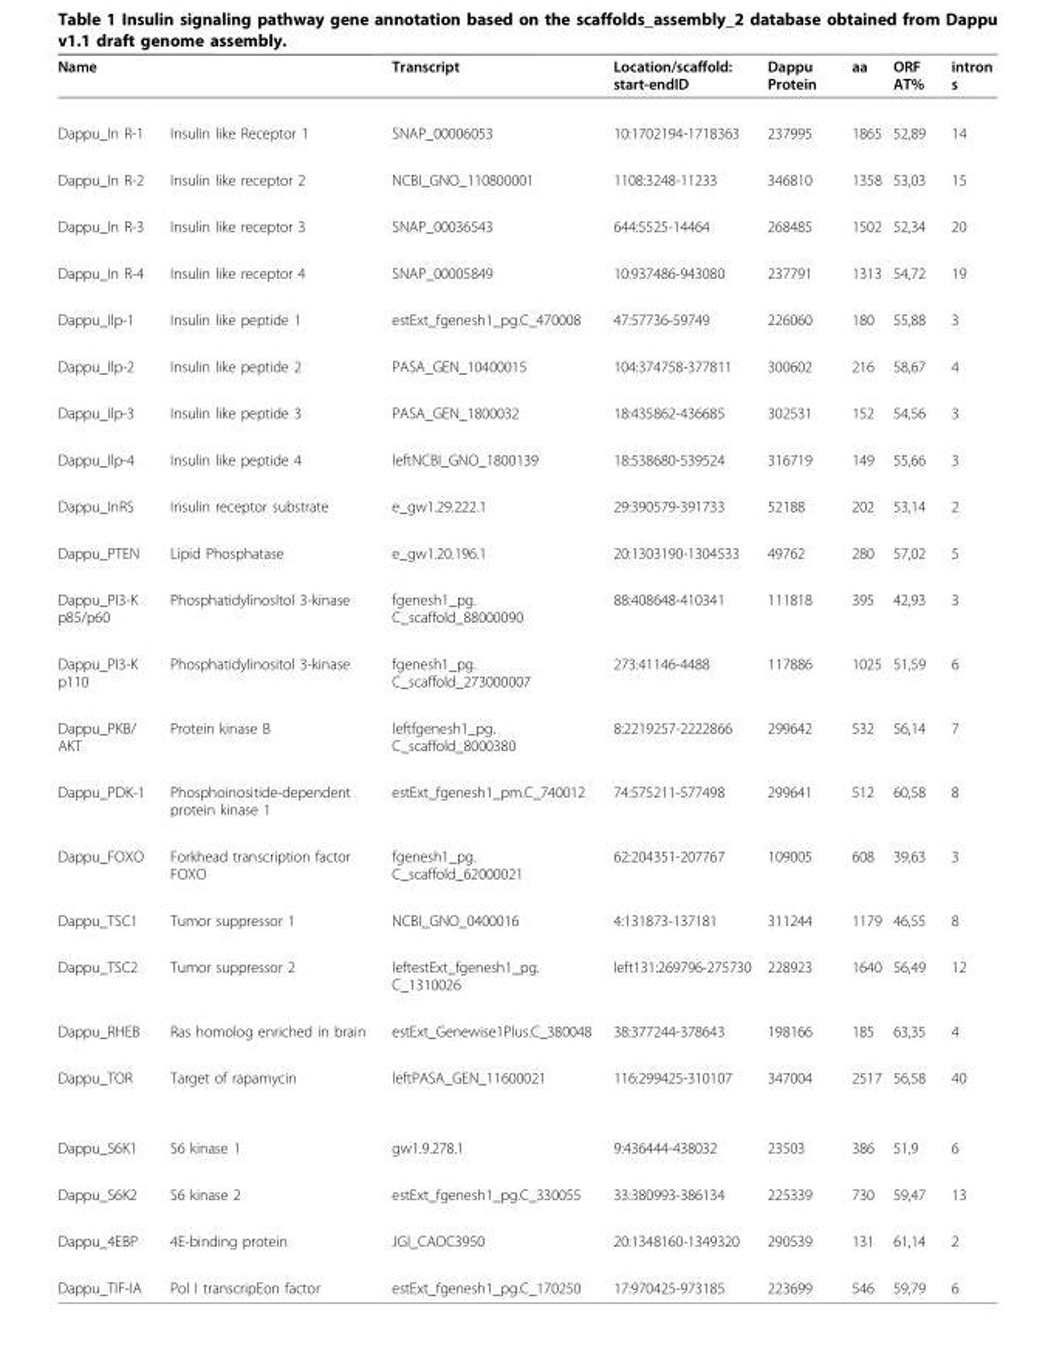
<table><thead><tr><td>Name</td><td></td><td>Transcript</td><td>Location/scaffold: start-endID</td><td>Dappu Protein</td><td>aa</td><td>ORF AT%</td><td>intron s</td></tr></thead><tbody><tr><td>Dappu_In R-1</td><td>Insulin like Receptor 1</td><td>SNAP_00006053</td><td>10:1702194-1718363</td><td>237995</td><td>1865</td><td>52,89</td><td>14</td></tr><tr><td>Dappu_In R-2</td><td>Insulin like receptor 2</td><td>NCBI_GNO_110800001</td><td>1108:3248-11233</td><td>346810</td><td>1358</td><td>53,03</td><td>15</td></tr><tr><td>Dappu_In R-3</td><td>Insulin like receptor 3</td><td>SNAP_00036543</td><td>644:5525-14464</td><td>268485</td><td>1502</td><td>52,34</td><td>20</td></tr><tr><td>Dappu_In R-4</td><td>Insulin like receptor 4</td><td>SNAP_00005849</td><td>10:937486-943080</td><td>237791</td><td>1313</td><td>54,72</td><td>19</td></tr><tr><td>Dappu_Ilp-1</td><td>Insulin like peptide 1</td><td>estExt_fgenesh1_pg.C_470008</td><td>47:57736-59749</td><td>226060</td><td>180</td><td>55,88</td><td>3</td></tr><tr><td>Dappu_Ilp-2</td><td>Insulin like peptide 2</td><td>PASA_GEN_10400015</td><td>104:374758-377811</td><td>300602</td><td>216</td><td>58,67</td><td>4</td></tr><tr><td>Dappu_Ilp-3</td><td>Insulin like peptide 3</td><td>PASA_GEN_1800032</td><td>18:435862-436685</td><td>302531</td><td>152</td><td>54,56</td><td>3</td></tr><tr><td>Dappu_Ilp-4</td><td>Insulin like peptide 4</td><td>leftNCBI_GNO_1800139</td><td>18:538680-539524</td><td>316719</td><td>149</td><td>55,66</td><td>3</td></tr><tr><td>Dappu_InRS</td><td>Insulin receptor substrate</td><td>e_gw1.29.222.1</td><td>29:390579-391733</td><td>52188</td><td>202</td><td>53,14</td><td>2</td></tr><tr><td>Dappu_PTEN</td><td>Lipid Phosphatase</td><td>e_gw1.20.196.1</td><td>20:1303190-1304533</td><td>49762</td><td>280</td><td>57,02</td><td>5</td></tr><tr><td>Dappu_PI3-K p85/p60</td><td>PhosphatidylinosItol 3-kinase</td><td>fgenesh1_pg. C_scaffold_88000090</td><td>88:408648-410341</td><td>111818</td><td>395</td><td>42,93</td><td>3</td></tr><tr><td>Dappu_PI3-K p110</td><td>Phosphatidylinositol 3-kinase</td><td>fgenesh1_pg. C_scaffold_273000007</td><td>273:41146-4488</td><td>117886</td><td>1025</td><td>51,59</td><td>6</td></tr><tr><td>Dappu_PKB/ AKT</td><td>Protein kinase B</td><td>leftfgenesh1_pg. C_scaffold_8000380</td><td>8:2219257-2222866</td><td>299642</td><td>532</td><td>56,14</td><td>7</td></tr><tr><td>Dappu_PDK-1</td><td>Phosphoinositide-dependent protein kinase 1</td><td>estExt_fgenesh1_pm.C_740012</td><td>74:575211-577498</td><td>299641</td><td>512</td><td>60,58</td><td>8</td></tr><tr><td>Dappu_FOXO</td><td>Forkhead transcription factor FOXO</td><td>fgenesh1_pg. C_scaffold_62000021</td><td>62:204351-207767</td><td>109005</td><td>608</td><td>39,63</td><td>3</td></tr><tr><td>Dappu_TSC1</td><td>Tumor suppressor 1</td><td>NCBI_GNO_0400016</td><td>4:131873-137181</td><td>311244</td><td>1179</td><td>46,55</td><td>8</td></tr><tr><td>Dappu_TSC2</td><td>Tumor suppressor 2</td><td>leftestExt_fgenesh1_pg. C_1310026</td><td>left131:269796-275730</td><td>228923</td><td>1640</td><td>56,49</td><td>12</td></tr><tr><td>Dappu_RHEB</td><td>Ras homolog enriched in brain</td><td>estExt_Genewise1Plus.C_380048</td><td>38:377244-378643</td><td>198166</td><td>185</td><td>63,35</td><td>4</td></tr><tr><td>Dappu_TOR</td><td>Target of rapamycin</td><td>leftPASA_GEN_11600021</td><td>116:299425-310107</td><td>347004</td><td>2517</td><td>56,58</td><td>40</td></tr><tr><td>Dappu_S6K1</td><td>S6 kinase 1</td><td>gw1.9.278.1</td><td>9:436444-438032</td><td>23503</td><td>386</td><td>51,9</td><td>6</td></tr><tr><td>Dappu_S6K2</td><td>S6 kinase 2</td><td>estExt_fgenesh1_pg.C_330055</td><td>33:380993-386134</td><td>225339</td><td>730</td><td>59,47</td><td>13</td></tr><tr><td>Dappu_4EBP</td><td>4E-binding protein</td><td>JGI_CAOC3950</td><td>20:1348160-1349320</td><td>290539</td><td>131</td><td>61,14</td><td>2</td></tr><tr><td>Dappu_TIF-IA</td><td>Pol I transcripEon factor</td><td>estExt_fgenesh1_pg.C_170250</td><td>17:970425-973185</td><td>223699</td><td>546</td><td>59,79</td><td>6</td></tr></tbody></table>